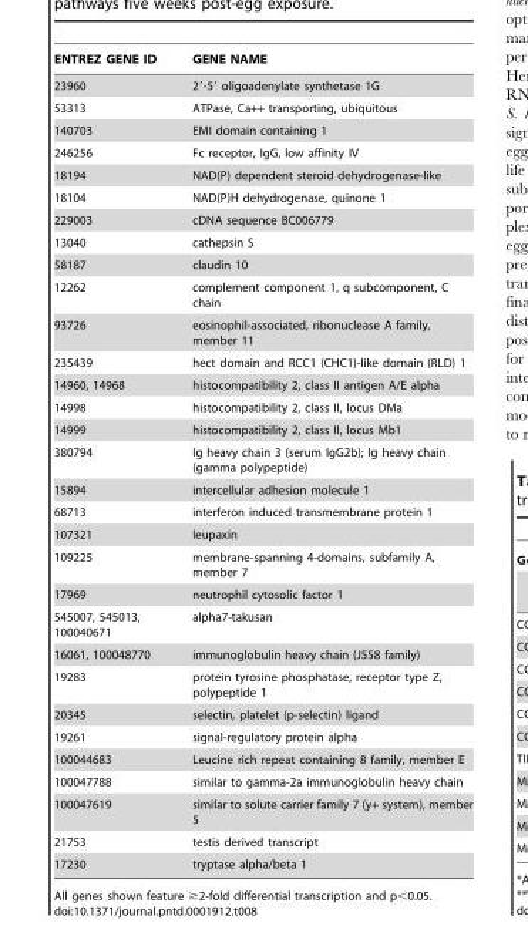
<table><thead><tr><td>ENTREZ GENE ID</td><td>GENE NAME</td></tr></thead><tbody><tr><td>23960</td><td>2′-5′ oligoadenylate synthetase 1G</td></tr><tr><td>53313</td><td>ATPase, Ca++ transporting, ubiquitous</td></tr><tr><td>140703</td><td>EMI domain containing 1</td></tr><tr><td>246256</td><td>Fc receptor, IgG, low affinity IV</td></tr><tr><td>18194</td><td>NAD(P) dependent steroid dehydrogenase-like</td></tr><tr><td>18104</td><td>NAD(P)H dehydrogenase, quinone 1</td></tr><tr><td>229003</td><td>cDNA sequence BC006779</td></tr><tr><td>13040</td><td>cathepsin S</td></tr><tr><td>58187</td><td>claudin 10</td></tr><tr><td>12262</td><td>complement component 1, q subcomponent, C chain</td></tr><tr><td>93726</td><td>eosinophil-associated, ribonuclease A family, member 11</td></tr><tr><td>235439</td><td>hect domain and RCC1 (CHC1)-like domain (RLD) 1</td></tr><tr><td>14960, 14968</td><td>histocompatibility 2, class II antigen A/E alpha</td></tr><tr><td>14998</td><td>histocompatibility 2, class II, locus DMa</td></tr><tr><td>14999</td><td>histocompatibility 2, class II, locus Mb1</td></tr><tr><td>380794</td><td>Ig heavy chain 3 (serum IgG2b); Ig heavy chain (gamma polypeptide)</td></tr><tr><td>15894</td><td>intercellular adhesion molecule 1</td></tr><tr><td>68713</td><td>interferon induced transmembrane protein 1</td></tr><tr><td>107321</td><td>leupaxin</td></tr><tr><td>109225</td><td>membrane-spanning 4-domains, subfamily A, member 7</td></tr><tr><td>17969</td><td>neutrophil cytosolic factor 1</td></tr><tr><td>545007, 545013, 100040671</td><td>alpha7-takusan</td></tr><tr><td>16061, 100048770</td><td>immunoglobulin heavy chain (J558 family)</td></tr><tr><td>19283</td><td>protein tyrosine phosphatase, receptor type Z, polypeptide 1</td></tr><tr><td>20345</td><td>selectin, platelet (p-selectin) ligand</td></tr><tr><td>19261</td><td>signal-regulatory protein alpha</td></tr><tr><td>100044683</td><td>Leucine rich repeat containing 8 family, member E</td></tr><tr><td>100047788</td><td>similar to gamma-2a immunoglobulin heavy chain</td></tr><tr><td>100047619</td><td>similar to solute carrier family 7 (y+ system), member 5</td></tr><tr><td>21753</td><td>testis derived transcript</td></tr><tr><td>17230</td><td>tryptase alpha/beta 1</td></tr></tbody></table>